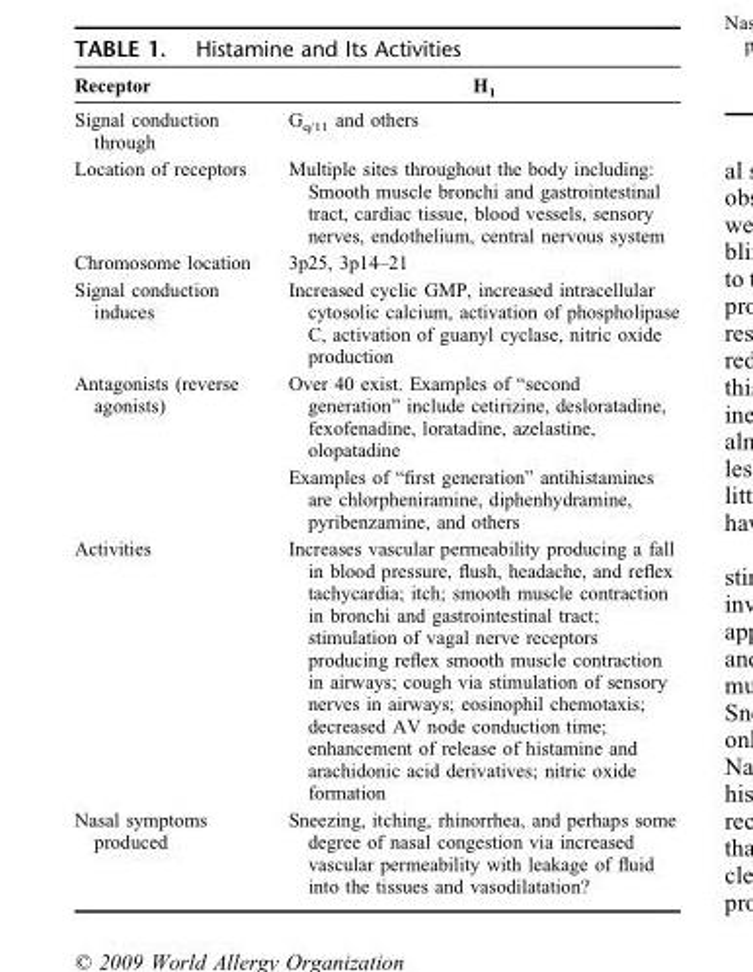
<table><thead><tr><td>Receptor</td><td>H<sub>1</sub></td></tr></thead><tbody><tr><td>Signal conduction through</td><td>G<sub>q/11</sub> and others</td></tr><tr><td>Location of receptors</td><td>Multiple sites throughout the body including: Smooth muscle bronchi and gastrointestinal tract, cardiac tissue, blood vessels, sensory nerves, endothelium, central nervous system</td></tr><tr><td>Chromosome location</td><td>3p25, 3p14–21</td></tr><tr><td>Signal conduction induces</td><td>Increased cyclic GMP, increased intracellular cytosolic calcium, activation of phospholipase C, activation of guanyl cyclase, nitric oxide production</td></tr><tr><td>Antagonists (reverse agonists)</td><td>Over 40 exist. Examples of “second generation” include cetirizine, desloratadine, fexofenadine, loratadine, azelastine, olopatadine Examples of “first generation” antihistamines are chlorpheniramine, diphenhydramine, pyribenzamine, and others</td></tr><tr><td>Activities</td><td>Increases vascular permeability producing a fall in blood pressure, flush, headache, and reflex tachycardia; itch; smooth muscle contraction in bronchi and gastrointestinal tract; stimulation of vagal nerve receptors producing reflex smooth muscle contraction in airways; cough via stimulation of sensory nerves in airways; eosinophil chemotaxis; decreased AV node conduction time; enhancement of release of histamine and arachidonic acid derivatives; nitric oxide formation</td></tr><tr><td>Nasal symptoms produced</td><td>Sneezing, itching, rhinorrhea, and perhaps some degree of nasal congestion via increased vascular permeability with leakage of fluid into the tissues and vasodilatation?</td></tr></tbody></table>